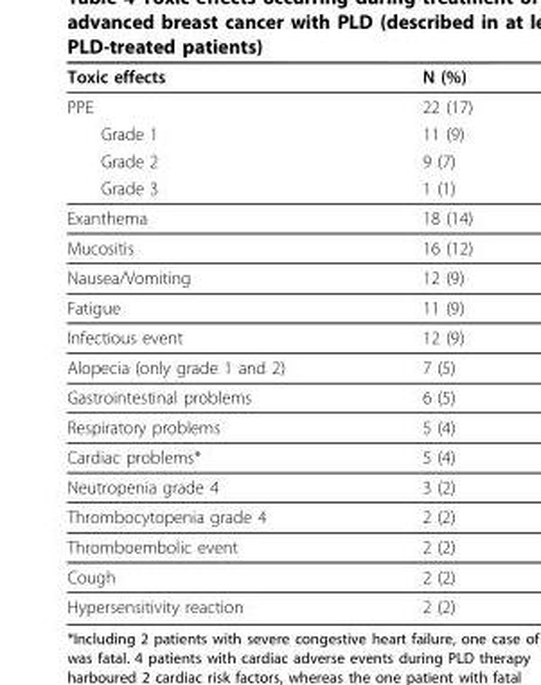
<table><tbody><tr><td>Toxic effects</td><td>N (%)</td></tr><tr><td>PPE</td><td>22 (17)</td></tr><tr><td>Grade 1</td><td>11 (9)</td></tr><tr><td>Grade 2</td><td>9 (7)</td></tr><tr><td>Grade 3</td><td>1 (1)</td></tr><tr><td>Exanthema</td><td>18 (14)</td></tr><tr><td>Mucositis</td><td>16 (12)</td></tr><tr><td>Nausea/Vomiting</td><td>12 (9)</td></tr><tr><td>Fatigue</td><td>11 (9)</td></tr><tr><td>Infectious event</td><td>12 (9)</td></tr><tr><td>Alopecia (only grade 1 and 2)</td><td>7 (5)</td></tr><tr><td>Gastrointestinal problems</td><td>6 (5)</td></tr><tr><td>Respiratory problems</td><td>5 (4)</td></tr><tr><td>Cardiac problems*</td><td>5 (4)</td></tr><tr><td>Neutropenia grade 4</td><td>3 (2)</td></tr><tr><td>Thrombocytopenia grade 4</td><td>2 (2)</td></tr><tr><td>Thromboembolic event</td><td>2 (2)</td></tr><tr><td>Cough</td><td>2 (2)</td></tr><tr><td>Hypersensitivity reaction</td><td>2 (2)</td></tr></tbody></table>